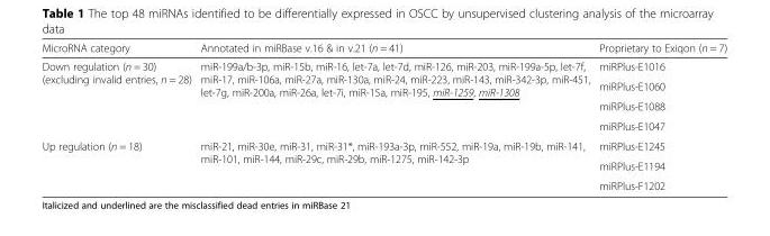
<table><thead><tr><td>MicroRNA category</td><td>Annotated in miRBase v.16 &amp; in v.21 (n = 41)</td><td>Proprietary to Exiqon (n = 7)</td></tr></thead><tbody><tr><td rowspan="4">Down regulation (n = 30) (excluding invalid entries, n = 28)</td><td rowspan="4">miR-199a/b-3p, miR-15b, miR-16, let-7a, let-7d, miR-126, miR-203, miR-199a-5p, let-7f, miR-17, miR-106a, miR-27a, miR-130a, miR-24, miR-223, miR-143, miR-342-3p, miR-451, let-7g, miR-200a, miR-26a, let-7i, miR-15a, miR-195, miR-1259, miR-1308</td><td>miRPlus-E1016</td></tr><tr><td>miRPlus-E1060</td></tr><tr><td>miRPlus-E1088</td></tr><tr><td>miRPlus-E1047</td></tr><tr><td rowspan="3">Up regulation (n = 18)</td><td rowspan="3">miR-21, miR-30e, miR-31, miR-31*, miR-193a-3p, miR-552, miR-19a, miR-19b, miR-141, miR-101, miR-144, miR-29c, miR-29b, miR-1275, miR-142-3p</td><td>miRPlus-E1245</td></tr><tr><td>miRPlus-E1194</td></tr><tr><td>miRPlus-F1202</td></tr></tbody></table>